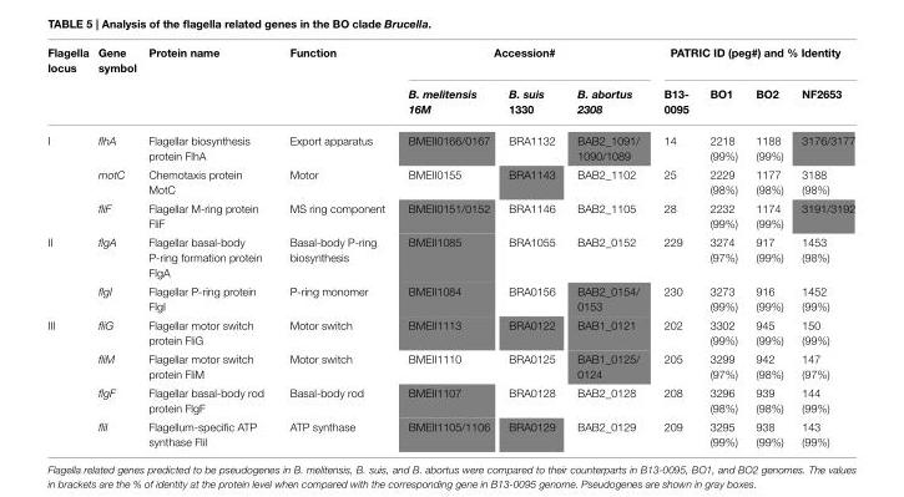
<table><thead><tr><td rowspan="2">Flagella locus</td><td rowspan="2">Gene symbol</td><td rowspan="2">Protein name</td><td rowspan="2">Function</td><td colspan="3">Accession#</td><td colspan="4">PATRIC ID (peg#) and % Identity</td></tr><tr><td>B. melitensis 16M</td><td>B. suis 1330</td><td>B. abortus 2308</td><td>B13- 0095</td><td>BO1</td><td>BO2</td><td>NF2653</td></tr></thead><tbody><tr><td rowspan="3">I</td><td>flhA</td><td>Flagellar biosynthesis protein FlhA</td><td>Export apparatus</td><td>BMEII0166/0167</td><td>BRA1132</td><td>BAB2_1091/ 1090/1089</td><td>14</td><td>2218 (99%)</td><td>1188 (99%)</td><td>3176/3177</td></tr><tr><td>motC</td><td>Chemotaxis protein MotC</td><td>Motor</td><td>BMEII0155</td><td>BRA1143</td><td>BAB2_1102</td><td>25</td><td>2229 (98%)</td><td>1177 (98%)</td><td>3188 (98%)</td></tr><tr><td>fliF</td><td>Flagellar M-ring protein FliF</td><td>MS ring component</td><td>BMEII0151/0152</td><td>BRA1146</td><td>BAB2_1105</td><td>28</td><td>2232 (99%)</td><td>1174 (99%)</td><td>3191/3192</td></tr><tr><td rowspan="2">II</td><td>flgA</td><td>Flagellar basal-body P-ring formation protein FlgA</td><td>Basal-body P-ring biosynthesis</td><td>BMEII1085</td><td>BRA1055</td><td>BAB2_0152</td><td>229</td><td>3274 (97%)</td><td>917 (99%)</td><td>1453 (98%)</td></tr><tr><td>flgI</td><td>Flagellar P-ring protein FlgI</td><td>P-ring monomer</td><td>BMEII1084</td><td>BRA0156</td><td>BAB2_0154/ 0153</td><td>230</td><td>3273 (99%)</td><td>916 (99%)</td><td>1452 (99%)</td></tr><tr><td rowspan="4">III</td><td>fliG</td><td>Flagellar motor switch protein FliG</td><td>Motor switch</td><td>BMEII1113</td><td>BRA0122</td><td>BAB1_0121</td><td>202</td><td>3302 (99%)</td><td>945 (99%)</td><td>150 (99%)</td></tr><tr><td>fliM</td><td>Flagellar motor switch protein FliM</td><td>Motor switch</td><td>BMEII1110</td><td>BRA0125</td><td>BAB1_0125/ 0124</td><td>205</td><td>3299 (97%)</td><td>942 (98%)</td><td>147 (97%)</td></tr><tr><td>flgF</td><td>Flagellar basal-body rod protein FlgF</td><td>Basal-body rod</td><td>BMEII1107</td><td>BRA0128</td><td>BAB2_0128</td><td>208</td><td>3296 (98%)</td><td>939 (98%)</td><td>144 (99%)</td></tr><tr><td>fliI</td><td>Flagellum-specific ATP synthase FliI</td><td>ATP synthase</td><td>BMEII1105/1106</td><td>BRA0129</td><td>BAB2_0129</td><td>209</td><td>3295 (99%)</td><td>938 (99%)</td><td>143 (99%)</td></tr></tbody></table>